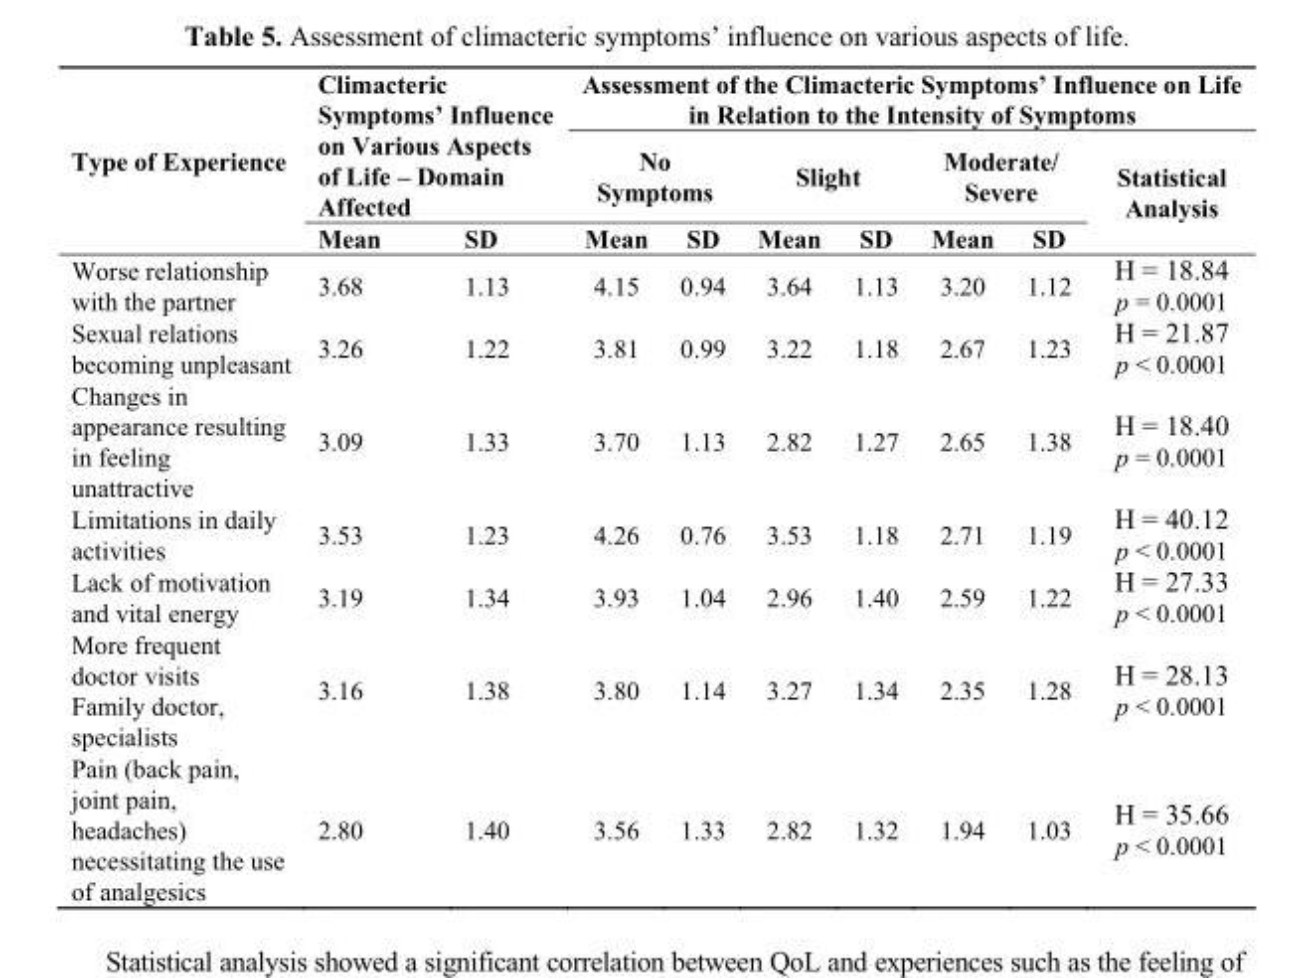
<table><thead><tr><td rowspan="3">Type of Experience</td><td rowspan="2" colspan="2">Climacteric Symptoms’ Influence on Various Aspects of Life – Domain Affected</td><td colspan="7">Assessment of the Climacteric Symptoms’ Influence on Life in Relation to the Intensity of Symptoms</td></tr><tr><td colspan="2">No Symptoms</td><td colspan="2">Slight</td><td colspan="2">Moderate/ Severe</td><td rowspan="2">Statistical Analysis</td></tr><tr><td>Mean</td><td>SD</td><td>Mean</td><td>SD</td><td>Mean</td><td>SD</td><td>Mean</td><td>SD</td></tr></thead><tbody><tr><td rowspan="2">Worse relationship with the partner</td><td rowspan="2">3.68</td><td rowspan="2">1.13</td><td rowspan="2">4.15</td><td rowspan="2">0.94</td><td rowspan="2">3.64</td><td rowspan="2">1.13</td><td rowspan="2">3.20</td><td rowspan="2">1.12</td><td>H = 18.84</td></tr><tr><td>p = 0.0001</td></tr><tr><td rowspan="2">Sexual relations becoming unpleasant</td><td rowspan="2">3.26</td><td rowspan="2">1.22</td><td rowspan="2">3.81</td><td rowspan="2">0.99</td><td rowspan="2">3.22</td><td rowspan="2">1.18</td><td rowspan="2">2.67</td><td rowspan="2">1.23</td><td>H = 21.87</td></tr><tr><td>p &lt; 0.0001</td></tr><tr><td rowspan="2">Changes in appearance resulting in feeling unattractive</td><td rowspan="2">3.09</td><td rowspan="2">1.33</td><td rowspan="2">3.70</td><td rowspan="2">1.13</td><td rowspan="2">2.82</td><td rowspan="2">1.27</td><td rowspan="2">2.65</td><td rowspan="2">1.38</td><td>H = 18.40</td></tr><tr><td>p = 0.0001</td></tr><tr><td rowspan="2">Limitations in daily activities</td><td rowspan="2">3.53</td><td rowspan="2">1.23</td><td rowspan="2">4.26</td><td rowspan="2">0.76</td><td rowspan="2">3.53</td><td rowspan="2">1.18</td><td rowspan="2">2.71</td><td rowspan="2">1.19</td><td>H = 40.12</td></tr><tr><td>p &lt; 0.0001</td></tr><tr><td rowspan="2">Lack of motivation and vital energy</td><td rowspan="2">3.19</td><td rowspan="2">1.34</td><td rowspan="2">3.93</td><td rowspan="2">1.04</td><td rowspan="2">2.96</td><td rowspan="2">1.40</td><td rowspan="2">2.59</td><td rowspan="2">1.22</td><td>H = 27.33</td></tr><tr><td>p &lt; 0.0001</td></tr><tr><td rowspan="2">More frequent doctor visits Family doctor, specialists</td><td rowspan="2">3.16</td><td rowspan="2">1.38</td><td rowspan="2">3.80</td><td rowspan="2">1.14</td><td rowspan="2">3.27</td><td rowspan="2">1.34</td><td rowspan="2">2.35</td><td rowspan="2">1.28</td><td>H = 28.13</td></tr><tr><td>p &lt; 0.0001</td></tr><tr><td rowspan="2">Pain (back pain, joint pain, headaches) necessitating the use of analgesics</td><td rowspan="2">2.80</td><td rowspan="2">1.40</td><td rowspan="2">3.56</td><td rowspan="2">1.33</td><td rowspan="2">2.82</td><td rowspan="2">1.32</td><td rowspan="2">1.94</td><td rowspan="2">1.03</td><td>H = 35.66</td></tr><tr><td>p &lt; 0.0001</td></tr></tbody></table>